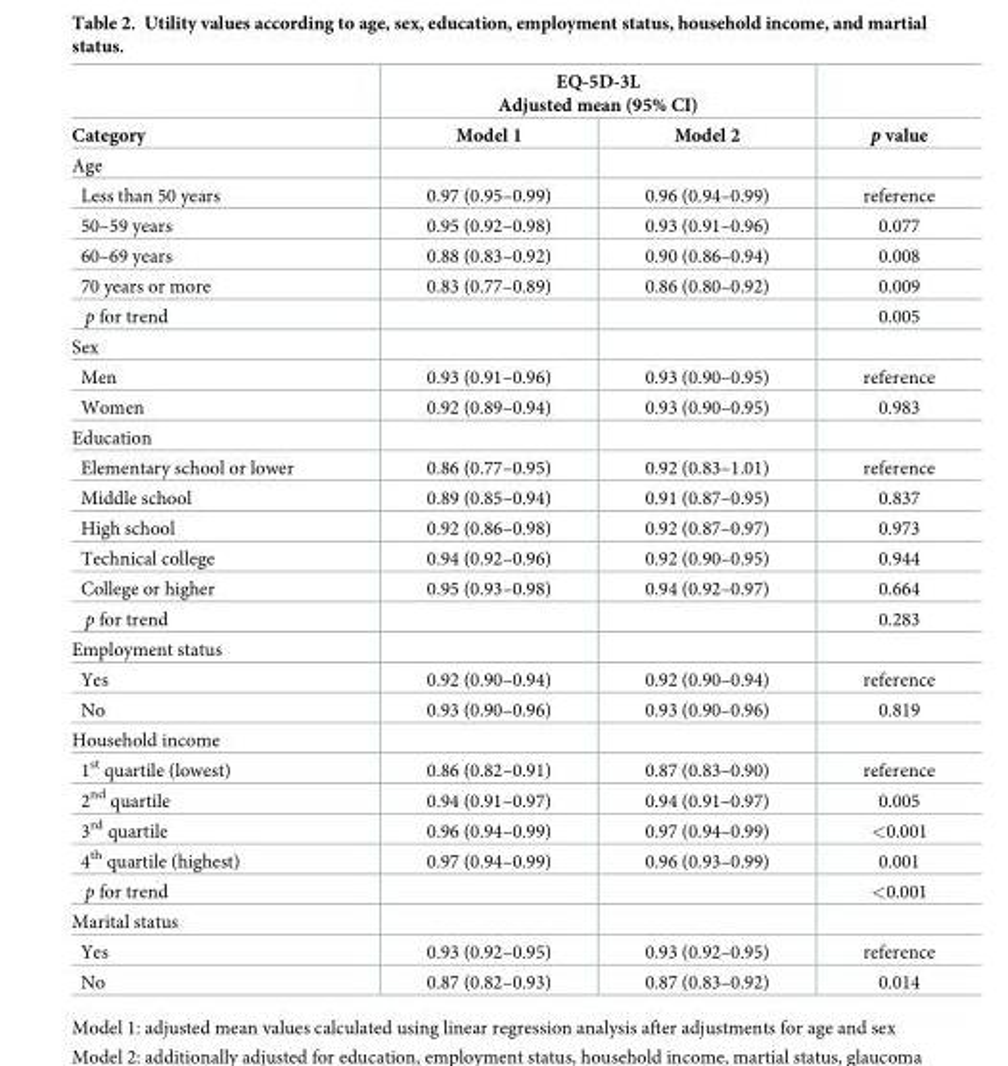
<table><thead><tr><td rowspan="2">Category</td><td colspan="2">EQ-5D-3L Adjusted mean (95% CI)</td><td rowspan="2">p value</td></tr><tr><td>Model 1</td><td>Model 2</td></tr></thead><tbody><tr><td colspan="4">Age</td></tr><tr><td>Less than 50 years</td><td>0.97 (0.95–0.99)</td><td>0.96 (0.94–0.99)</td><td>reference</td></tr><tr><td>50–59 years</td><td>0.95 (0.92–0.98)</td><td>0.93 (0.91–0.96)</td><td>0.077</td></tr><tr><td>60–69 years</td><td>0.88 (0.83–0.92)</td><td>0.90 (0.86–0.94)</td><td>0.008</td></tr><tr><td>70 years or more</td><td>0.83 (0.77–0.89)</td><td>0.86 (0.80–0.92)</td><td>0.009</td></tr><tr><td>p for trend</td><td></td><td></td><td>0.005</td></tr><tr><td colspan="4">Sex</td></tr><tr><td>Men</td><td>0.93 (0.91–0.96)</td><td>0.93 (0.90–0.95)</td><td>reference</td></tr><tr><td>Women</td><td>0.92 (0.89–0.94)</td><td>0.93 (0.90–0.95)</td><td>0.983</td></tr><tr><td colspan="4">Education</td></tr><tr><td>Elementary school or lower</td><td>0.86 (0.77–0.95)</td><td>0.92 (0.83–1.01)</td><td>reference</td></tr><tr><td>Middle school</td><td>0.89 (0.85–0.94)</td><td>0.91 (0.87–0.95)</td><td>0.837</td></tr><tr><td>High school</td><td>0.92 (0.86–0.98)</td><td>0.92 (0.87–0.97)</td><td>0.973</td></tr><tr><td>Technical college</td><td>0.94 (0.92–0.96)</td><td>0.92 (0.90–0.95)</td><td>0.944</td></tr><tr><td>College or higher</td><td>0.95 (0.93–0.98)</td><td>0.94 (0.92–0.97)</td><td>0.664</td></tr><tr><td>p for trend</td><td></td><td></td><td>0.283</td></tr><tr><td colspan="4">Employment status</td></tr><tr><td>Yes</td><td>0.92 (0.90–0.94)</td><td>0.92 (0.90–0.94)</td><td>reference</td></tr><tr><td>No</td><td>0.93 (0.90–0.96)</td><td>0.93 (0.90–0.96)</td><td>0.819</td></tr><tr><td colspan="4">Household income</td></tr><tr><td>1<sup>st</sup> quartile (lowest)</td><td>0.86 (0.82–0.91)</td><td>0.87 (0.83–0.90)</td><td>reference</td></tr><tr><td>2<sup>nd</sup> quartile</td><td>0.94 (0.91–0.97)</td><td>0.94 (0.91–0.97)</td><td>0.005</td></tr><tr><td>3<sup>rd</sup> quartile</td><td>0.96 (0.94–0.99)</td><td>0.97 (0.94–0.99)</td><td>&lt;0.001</td></tr><tr><td>4<sup>th</sup> quartile (highest)</td><td>0.97 (0.94–0.99)</td><td>0.96 (0.93–0.99)</td><td>0.001</td></tr><tr><td>p for trend</td><td></td><td></td><td>&lt;0.001</td></tr><tr><td colspan="4">Marital status</td></tr><tr><td>Yes</td><td>0.93 (0.92–0.95)</td><td>0.93 (0.92–0.95)</td><td>reference</td></tr><tr><td>No</td><td>0.87 (0.82–0.93)</td><td>0.87 (0.83–0.92)</td><td>0.014</td></tr></tbody></table>